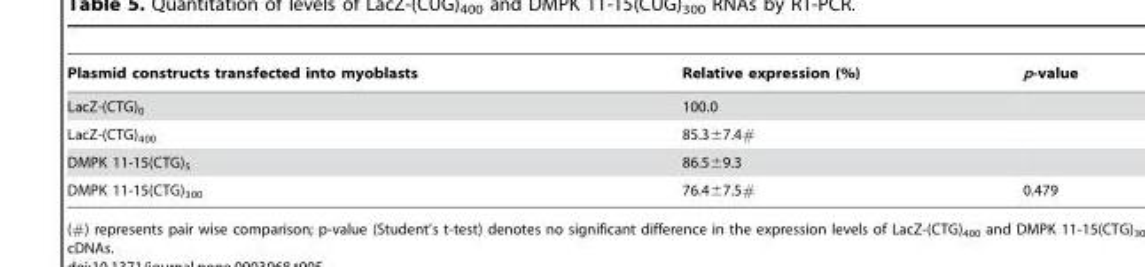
<table><thead><tr><td>Plasmid constructs transfected into myoblasts</td><td>Relative expression (%)</td><td>p-value</td></tr></thead><tbody><tr><td>LacZ-(CTG)<sub>0</sub></td><td>100.0</td><td></td></tr><tr><td>LacZ-(CTG)<sub>400</sub></td><td>85.3±7.4#</td><td></td></tr><tr><td>DMPK 11-15(CTG)<sub>5</sub></td><td>86.5±9.3</td><td></td></tr><tr><td>DMPK 11-15(CTG)<sub>300</sub></td><td>76.4±7.5#</td><td>0.479</td></tr></tbody></table>